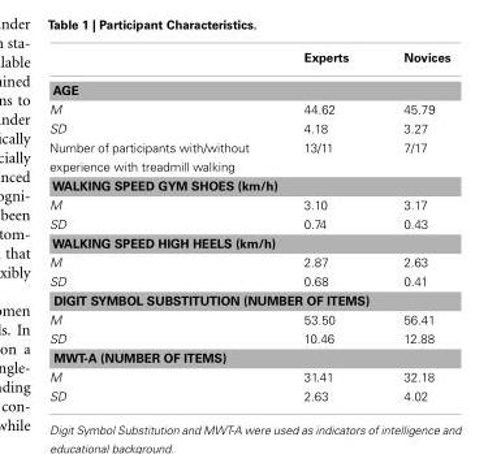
<table><thead><tr><td></td><td>Experts</td><td>Novices</td></tr></thead><tbody><tr><td colspan="3">AGE</td></tr><tr><td>M</td><td>44.62</td><td>45.79</td></tr><tr><td>SD</td><td>4.18</td><td>3.27</td></tr><tr><td>Number of participants with/without experience with treadmill walking</td><td>13/11</td><td>7/17</td></tr><tr><td colspan="3">WALKING SPEED GYM SHOES (km/h)</td></tr><tr><td>M</td><td>3.10</td><td>3.17</td></tr><tr><td>SD</td><td>0.74</td><td>0.43</td></tr><tr><td colspan="3">WALKING SPEED HIGH HEELS (km/h)</td></tr><tr><td>M</td><td>2.87</td><td>2.63</td></tr><tr><td>SD</td><td>0.68</td><td>0.41</td></tr><tr><td colspan="3">DIGIT SYMBOL SUBSTITUTION (NUMBER OF ITEMS)</td></tr><tr><td>M</td><td>53.50</td><td>56.41</td></tr><tr><td>SD</td><td>10.46</td><td>12.88</td></tr><tr><td colspan="3">MWT-A (NUMBER OF ITEMS)</td></tr><tr><td>M</td><td>31.41</td><td>32.18</td></tr><tr><td>SD</td><td>2.63</td><td>4.02</td></tr></tbody></table>